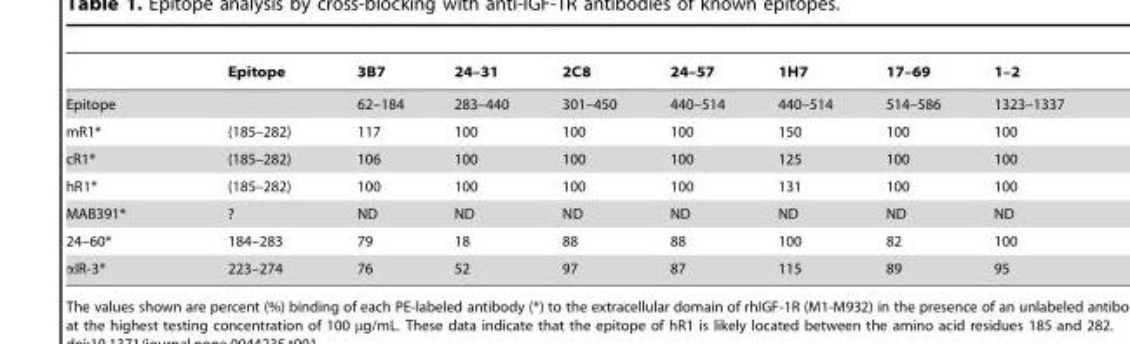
<table><thead><tr><td></td><td>Epitope</td><td>3B7</td><td>24–31</td><td>2C8</td><td>24–57</td><td>1H7</td><td>17–69</td><td>1–2</td></tr></thead><tbody><tr><td>Epitope</td><td></td><td>62–184</td><td>283–440</td><td>301–450</td><td>440–514</td><td>440–514</td><td>514–586</td><td>1323–1337</td></tr><tr><td>mR1*</td><td>(185–282)</td><td>117</td><td>100</td><td>100</td><td>100</td><td>150</td><td>100</td><td>100</td></tr><tr><td>cR1*</td><td>(185–282)</td><td>106</td><td>100</td><td>100</td><td>100</td><td>125</td><td>100</td><td>100</td></tr><tr><td>hR1*</td><td>(185–282)</td><td>100</td><td>100</td><td>100</td><td>100</td><td>131</td><td>100</td><td>100</td></tr><tr><td>MAB391*</td><td>?</td><td>ND</td><td>ND</td><td>ND</td><td>ND</td><td>ND</td><td>ND</td><td>ND</td></tr><tr><td>24–60*</td><td>184–283</td><td>79</td><td>18</td><td>88</td><td>88</td><td>100</td><td>82</td><td>100</td></tr><tr><td>αIR-3*</td><td>223–274</td><td>76</td><td>52</td><td>97</td><td>87</td><td>115</td><td>89</td><td>95</td></tr></tbody></table>